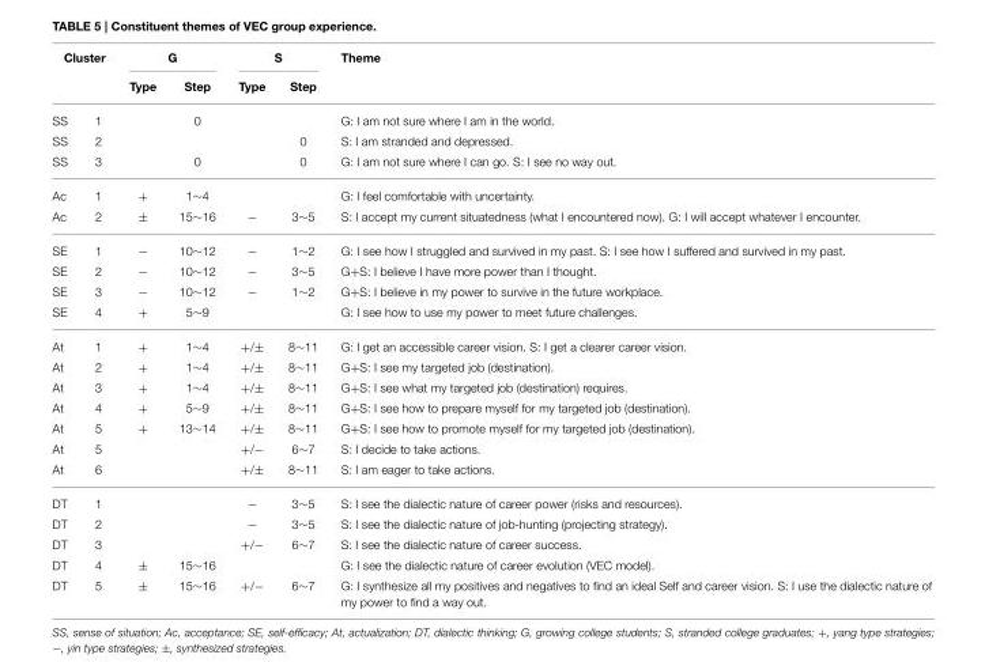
<table><thead><tr><td colspan="2">Cluster</td><td colspan="2">G</td><td colspan="2">S</td><td rowspan="2">Theme</td></tr><tr><td></td><td></td><td>Type</td><td>Step</td><td>Type</td><td>Step</td></tr></thead><tbody><tr><td>SS</td><td>1</td><td></td><td>0</td><td></td><td></td><td>G: I am not sure where I am in the world.</td></tr><tr><td>SS</td><td>2</td><td></td><td></td><td></td><td>0</td><td>S: I am stranded and depressed.</td></tr><tr><td>SS</td><td>3</td><td></td><td>0</td><td></td><td>0</td><td>G: I am not sure where I can go. S: I see no way out.</td></tr><tr><td>Ac</td><td>1</td><td>+</td><td>1∼4</td><td></td><td></td><td>G: I feel comfortable with uncertainty.</td></tr><tr><td>Ac</td><td>2</td><td>±</td><td>15∼16</td><td>−</td><td>3∼5</td><td>S: I accept my current situatedness (what I encountered now). G: I will accept whatever I encounter.</td></tr><tr><td>SE</td><td>1</td><td>−</td><td>10∼12</td><td>−</td><td>1∼2</td><td>G: I see how I struggled and survived in my past. S: I see how I suffered and survived in my past.</td></tr><tr><td>SE</td><td>2</td><td>−</td><td>10∼12</td><td>−</td><td>3∼5</td><td>G+S: I believe I have more power than I thought.</td></tr><tr><td>SE</td><td>3</td><td>−</td><td>10∼12</td><td>−</td><td>1∼2</td><td>G+S: I believe in my power to survive in the future workplace.</td></tr><tr><td>SE</td><td>4</td><td>+</td><td>5∼9</td><td></td><td></td><td>G: I see how to use my power to meet future challenges.</td></tr><tr><td>At</td><td>1</td><td>+</td><td>1∼4</td><td>+/±</td><td>8∼11</td><td>G: I get an accessible career vision. S: I get a clearer career vision.</td></tr><tr><td>At</td><td>2</td><td>+</td><td>1∼4</td><td>+/±</td><td>8∼11</td><td>G+S: I see my targeted job (destination).</td></tr><tr><td>At</td><td>3</td><td>+</td><td>1∼4</td><td>+/±</td><td>8∼11</td><td>G+S: I see what my targeted job (destination) requires.</td></tr><tr><td>At</td><td>4</td><td>+</td><td>5∼9</td><td>+/±</td><td>8∼11</td><td>G+S: I see how to prepare myself for my targeted job (destination).</td></tr><tr><td>At</td><td>5</td><td>+</td><td>13∼14</td><td>+/±</td><td>8∼11</td><td>G+S: I see how to promote myself for my targeted job (destination).</td></tr><tr><td>At</td><td>5</td><td></td><td></td><td>+/−</td><td>6∼7</td><td>S: I decide to take actions.</td></tr><tr><td>At</td><td>6</td><td></td><td></td><td>+/±</td><td>8∼11</td><td>S: I am eager to take actions.</td></tr><tr><td>DT</td><td>1</td><td></td><td></td><td>−</td><td>3∼5</td><td>S: I see the dialectic nature of career power (risks and resources).</td></tr><tr><td>DT</td><td>2</td><td></td><td></td><td>−</td><td>3∼5</td><td>S: I see the dialectic nature of job-hunting (projecting strategy).</td></tr><tr><td>DT</td><td>3</td><td></td><td></td><td>+/−</td><td>6∼7</td><td>S: I see the dialectic nature of career success.</td></tr><tr><td>DT</td><td>4</td><td>±</td><td>15∼16</td><td></td><td></td><td>G: I see the dialectic nature of career evolution (VEC model).</td></tr><tr><td>DT</td><td>5</td><td>±</td><td>15∼16</td><td>+/−</td><td>6∼7</td><td>G: I synthesize all my positives and negatives to find an ideal Self and career vision. S: I use the dialectic nature of my power to find a way out.</td></tr></tbody></table>